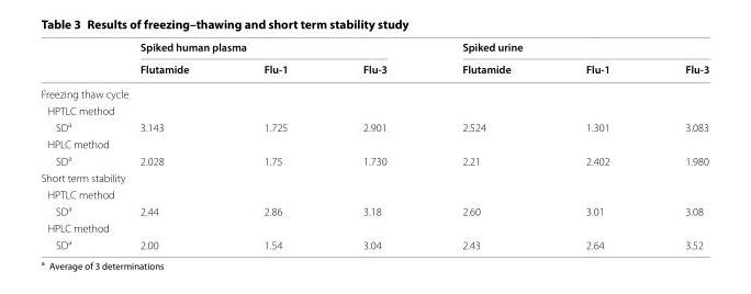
<table><thead><tr><td rowspan="2"></td><td colspan="3">Spiked human plasma</td><td colspan="3">Spiked urine</td></tr><tr><td>Flutamide</td><td>Flu-1</td><td>Flu-3</td><td>Flutamide</td><td>Flu-1</td><td>Flu-3</td></tr></thead><tbody><tr><td colspan="7">Freezing thaw cycle</td></tr><tr><td colspan="7">HPTLC method</td></tr><tr><td>SD<sup>a</sup></td><td>3.143</td><td>1.725</td><td>2.901</td><td>2.524</td><td>1.301</td><td>3.083</td></tr><tr><td colspan="7">HPLC method</td></tr><tr><td>SD<sup>a</sup></td><td>2.028</td><td>1.75</td><td>1.730</td><td>2.21</td><td>2.402</td><td>1.980</td></tr><tr><td colspan="7">Short term stability</td></tr><tr><td colspan="7">HPTLC method</td></tr><tr><td>SD<sup>a</sup></td><td>2.44</td><td>2.86</td><td>3.18</td><td>2.60</td><td>3.01</td><td>3.08</td></tr><tr><td colspan="7">HPLC method</td></tr><tr><td>SD<sup>a</sup></td><td>2.00</td><td>1.54</td><td>3.04</td><td>2.43</td><td>2.64</td><td>3.52</td></tr></tbody></table>